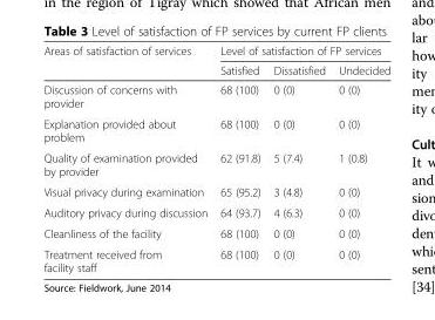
<table><thead><tr><td rowspan="2">Areas of satisfaction of services</td><td colspan="3">Level of satisfaction of FP services</td></tr><tr><td>Satisfied</td><td>Dissatisfied</td><td>Undecided</td></tr></thead><tbody><tr><td>Discussion of concerns with provider</td><td>68 (100)</td><td>0 (0)</td><td>0 (0)</td></tr><tr><td>Explanation provided about problem</td><td>68 (100)</td><td>0 (0)</td><td>0 (0)</td></tr><tr><td>Quality of examination provided by provider</td><td>62 (91.8)</td><td>5 (7.4)</td><td>1 (0.8)</td></tr><tr><td>Visual privacy during examination</td><td>65 (95.2)</td><td>3 (4.8)</td><td>0 (0)</td></tr><tr><td>Auditory privacy during discussion</td><td>64 (93.7)</td><td>4 (6.3)</td><td>0 (0)</td></tr><tr><td>Cleanliness of the facility</td><td>68 (100)</td><td>0 (0)</td><td>0 (0)</td></tr><tr><td>Treatment received from facility staff</td><td>68 (100)</td><td>0 (0)</td><td>0 (0)</td></tr></tbody></table>